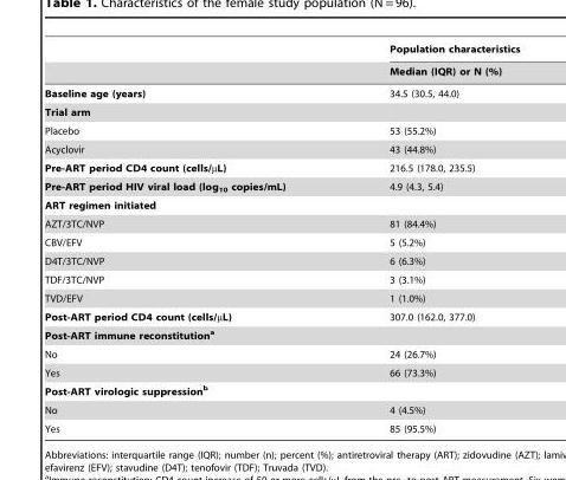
<table><thead><tr><td rowspan="2"></td><td rowspan="2">Population characteristics Median (IQR) or N (%)</td></tr><tr></tr></thead><tbody><tr><td>Baseline age (years)</td><td>34.5 (30.5, 44.0)</td></tr><tr><td colspan="2">Trial arm</td></tr><tr><td>Placebo</td><td>53 (55.2%)</td></tr><tr><td>Acyclovir</td><td>43 (44.8%)</td></tr><tr><td>Pre-ART period CD4 count (cells/µL)</td><td>216.5 (178.0, 235.5)</td></tr><tr><td>Pre-ART period HIV viral load (log<sub>10</sub> copies/mL)</td><td>4.9 (4.3, 5.4)</td></tr><tr><td colspan="2">ART regimen initiated</td></tr><tr><td>AZT/3TC/NVP</td><td>81 (84.4%)</td></tr><tr><td>CBV/EFV</td><td>5 (5.2%)</td></tr><tr><td>D4T/3TC/NVP</td><td>6 (6.3%)</td></tr><tr><td>TDF/3TC/NVP</td><td>3 (3.1%)</td></tr><tr><td>TVD/EFV</td><td>1 (1.0%)</td></tr><tr><td>Post-ART period CD4 count (cells/µL)</td><td>307.0 (162.0, 377.0)</td></tr><tr><td colspan="2">Post-ART immune reconstitutiona</td></tr><tr><td>No</td><td>24 (26.7%)</td></tr><tr><td>Yes</td><td>66 (73.3%)</td></tr><tr><td colspan="2">Post-ART virologic suppressionb</td></tr><tr><td>No</td><td>4 (4.5%)</td></tr><tr><td>Yes</td><td>85 (95.5%)</td></tr></tbody></table>